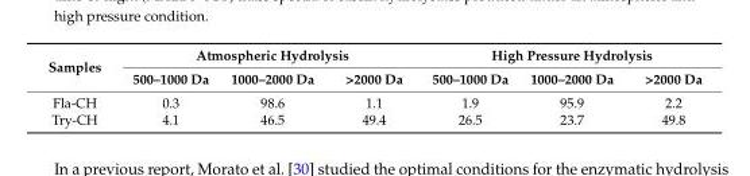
<table><thead><tr><td rowspan="2">Samples</td><td colspan="3">Atmospheric Hydrolysis</td><td colspan="3">High Pressure Hydrolysis</td></tr><tr><td>500–1000 Da</td><td>1000–2000 Da</td><td>&gt;2000 Da</td><td>500–1000 Da</td><td>1000–2000 Da</td><td>&gt;2000 Da</td></tr></thead><tbody><tr><td>Fla-CH</td><td>0.3</td><td>98.6</td><td>1.1</td><td>1.9</td><td>95.9</td><td>2.2</td></tr><tr><td>Try-CH</td><td>4.1</td><td>46.5</td><td>49.4</td><td>26.5</td><td>23.7</td><td>49.8</td></tr></tbody></table>